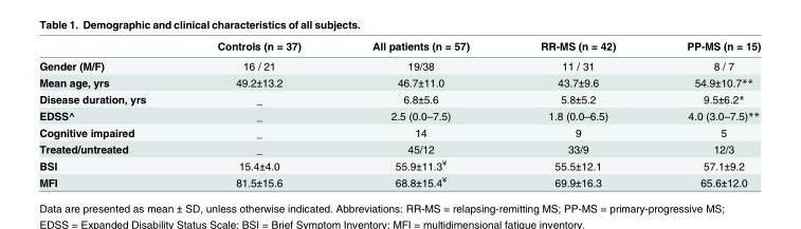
<table><thead><tr><td></td><td>Controls (n = 37)</td><td>All patients (n = 57)</td><td>RR-MS (n = 42)</td><td>PP-MS (n = 15)</td></tr></thead><tbody><tr><td>Gender (M/F)</td><td>16 / 21</td><td>19/38</td><td>11 / 31</td><td>8 / 7</td></tr><tr><td>Mean age, yrs</td><td>49.2±13.2</td><td>46.7±11.0</td><td>43.7±9.6</td><td>54.9±10.7**</td></tr><tr><td>Disease duration, yrs</td><td>_</td><td>6.8±5.6</td><td>5.8±5.2</td><td>9.5±6.2*</td></tr><tr><td>EDSS^</td><td>_</td><td>2.5 (0.0–7.5)</td><td>1.8 (0.0–6.5)</td><td>4.0 (3.0–7.5)**</td></tr><tr><td>Cognitive impaired</td><td>_</td><td>14</td><td>9</td><td>5</td></tr><tr><td>Treated/untreated</td><td>_</td><td>45/12</td><td>33/9</td><td>12/3</td></tr><tr><td>BSI</td><td>15.4±4.0</td><td>55.9±11.3<sup>¥</sup></td><td>55.5±12.1</td><td>57.1±9.2</td></tr><tr><td>MFI</td><td>81.5±15.6</td><td>68.8±15.4<sup>¥</sup></td><td>69.9±16.3</td><td>65.6±12.0</td></tr></tbody></table>